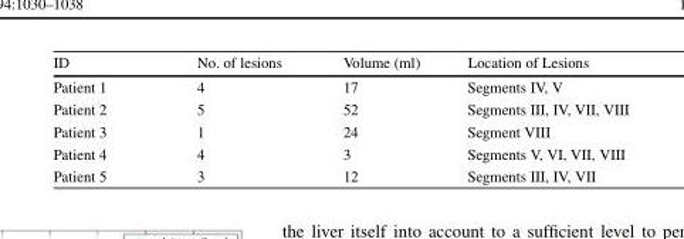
<table><thead><tr><td>ID</td><td>No. of lesions</td><td>Volume (ml)</td><td>Location of Lesions</td></tr></thead><tbody><tr><td>Patient 1</td><td>4</td><td>17</td><td>Segments IV, V</td></tr><tr><td>Patient 2</td><td>5</td><td>52</td><td>Segments III, IV, VII, VIII</td></tr><tr><td>Patient 3</td><td>1</td><td>24</td><td>Segment VIII</td></tr><tr><td>Patient 4</td><td>4</td><td>3</td><td>Segments V, VI, VII, VIII</td></tr><tr><td>Patient 5</td><td>3</td><td>12</td><td>Segments III, IV, VII</td></tr></tbody></table>